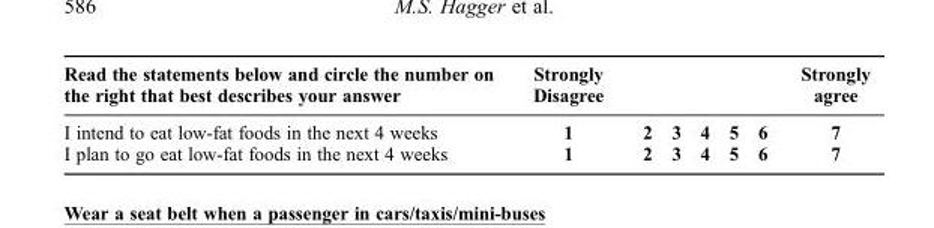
<table><thead><tr><td>Read the statements below and circle the number on the right that best describes your answer</td><td>Strongly Disagree</td><td></td><td></td><td></td><td></td><td></td><td>Strongly agree</td></tr></thead><tbody><tr><td>I intend to eat low-fat foods in the next 4 weeks</td><td>1</td><td>2</td><td>3</td><td>4</td><td>5</td><td>6</td><td>7</td></tr><tr><td>I plan to go eat low-fat foods in the next 4 weeks</td><td>1</td><td>2</td><td>3</td><td>4</td><td>5</td><td>6</td><td>7</td></tr></tbody></table>